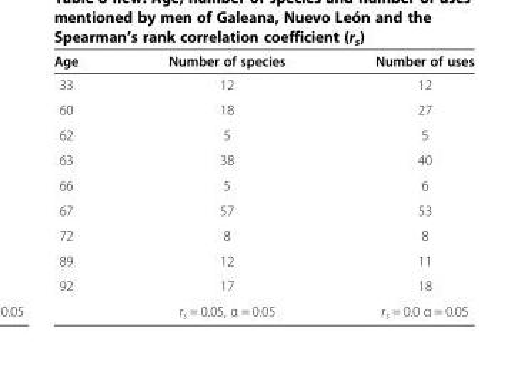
<table><thead><tr><td>Age</td><td>Number of species</td><td>Number of uses</td></tr></thead><tbody><tr><td>33</td><td>12</td><td>12</td></tr><tr><td>60</td><td>18</td><td>27</td></tr><tr><td>62</td><td>5</td><td>5</td></tr><tr><td>63</td><td>38</td><td>40</td></tr><tr><td>66</td><td>5</td><td>6</td></tr><tr><td>67</td><td>57</td><td>53</td></tr><tr><td>72</td><td>8</td><td>8</td></tr><tr><td>89</td><td>12</td><td>11</td></tr><tr><td rowspan="2">92</td><td>17</td><td>18</td></tr><tr><td>r<sub>s</sub> = 0.05, α = 0.05</td><td>r<sub>s</sub> = 0.0 α = 0.05</td></tr></tbody></table>